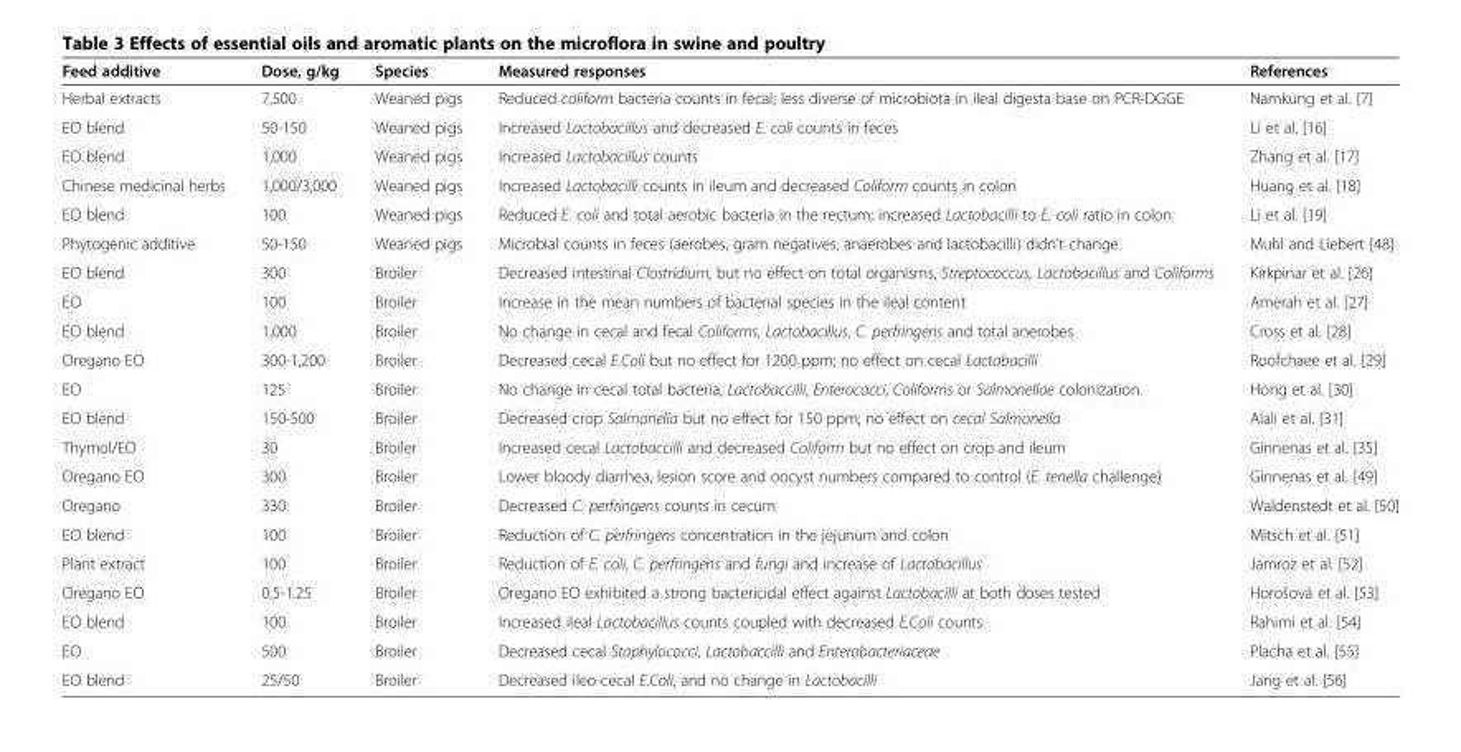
<table><thead><tr><td>Feed additive</td><td>Dose, g/kg</td><td>Species</td><td>Measured responses</td><td>References</td></tr></thead><tbody><tr><td>Herbal extracts</td><td>7,500</td><td>Weaned pigs</td><td>Reduced coliform bacteria counts in fecal; less diverse of microbiota in ileal digesta base on PCR-DGGE</td><td>Namkung et al. [7]</td></tr><tr><td>EO blend</td><td>50-150</td><td>Weaned pigs</td><td>Increased Lactobacillus and decreased E. coli counts in feces</td><td>Li et al. [16]</td></tr><tr><td>EO blend</td><td>1,000</td><td>Weaned pigs</td><td>Increased Lactobacillus counts</td><td>Zhang et al. [17]</td></tr><tr><td>Chinese medicinal herbs</td><td>1,000/3,000</td><td>Weaned pigs</td><td>Increased Lactobacilli counts in ileum and decreased Coliform counts in colon</td><td>Huang et al. [18]</td></tr><tr><td>EO blend</td><td>100</td><td>Weaned pigs</td><td>Reduced E. coli and total aerobic bacteria in the rectum; increased Lactobacilli to E. coli ratio in colon</td><td>Li et al. [19]</td></tr><tr><td>Phytogenic additive</td><td>50-150</td><td>Weaned pigs</td><td>Microbial counts in feces (aerobes, gram negatives, anaerobes and lactobacilli) didn’t change</td><td>Muhl and Liebert [48]</td></tr><tr><td>EO blend</td><td>300</td><td>Broiler</td><td>Decreased intestinal Clostridium, but no effect on total organisms, Streptococcus, Lactobacillus and Coliforms</td><td>Kirkpinar et al. [26]</td></tr><tr><td>EO</td><td>100</td><td>Broiler</td><td>Increase in the mean numbers of bacterial species in the ileal content</td><td>Amerah et al. [27]</td></tr><tr><td>EO blend</td><td>1,000</td><td>Broiler</td><td>No change in cecal and fecal Coliforms, Lactobacillus, C. perfringens and total anerobes</td><td>Cross et al. [28]</td></tr><tr><td>Oregano EO</td><td>300-1,200</td><td>Broiler</td><td>Decreased cecal E.Coli but no effect for 1200 ppm; no effect on cecal Lactobacilli</td><td>Roofchaee et al. [29]</td></tr><tr><td>EO</td><td>125</td><td>Broiler</td><td>No change in cecal total bacteria, Lactobaccilli, Enterococci, Coliforms or Salmonellae colonization.</td><td>Hong et al. [30]</td></tr><tr><td>EO blend</td><td>150-500</td><td>Broiler</td><td>Decreased crop Salmonella but no effect for 150 ppm; no effect on cecal Salmonella</td><td>Alali et al. [31]</td></tr><tr><td>Thymol/EO</td><td>30</td><td>Broiler</td><td>Increased cecal Lactobaccilli and decreased Coliform but no effect on crop and ileum</td><td>Ginnenas et al. [35]</td></tr><tr><td>Oregano EO</td><td>300</td><td>Broiler</td><td>Lower bloody diarrhea, lesion score and oocyst numbers compared to control (E. tenella challenge)</td><td>Ginnenas et al. [49]</td></tr><tr><td>Oregano</td><td>330</td><td>Broiler</td><td>Decreased C. perfringens counts in cecum</td><td>Waldenstedt et al. [50]</td></tr><tr><td>EO blend</td><td>100</td><td>Broiler</td><td>Reduction of C. perfringens concentration in the jejunum and colon</td><td>Mitsch et al. [51]</td></tr><tr><td>Plant extract</td><td>100</td><td>Broiler</td><td>Reduction of E. coli, C. perfringens and fungi and increase of Lactobacillus</td><td>Jamroz et al. [52]</td></tr><tr><td>Oregano EO</td><td>0.5-1.25</td><td>Broiler</td><td>Oregano EO exhibited a strong bactericidal effect against Lactobacilli at both doses tested</td><td>Horošová et al. [53]</td></tr><tr><td>EO blend</td><td>100</td><td>Broiler</td><td>Increased ileal Lactobacillus counts coupled with decreased E.Coli counts</td><td>Rahimi et al. [54]</td></tr><tr><td>EO</td><td>500</td><td>Broiler</td><td>Decreased cecal Staphylococci, Lactobaccilli and Enterobacteriaceae</td><td>Placha et al. [55]</td></tr><tr><td>EO blend</td><td>25/50</td><td>Broiler</td><td>Decreased ileo-cecal E.Coli, and no change in Lactobacilli</td><td>Jang et al. [56]</td></tr></tbody></table>